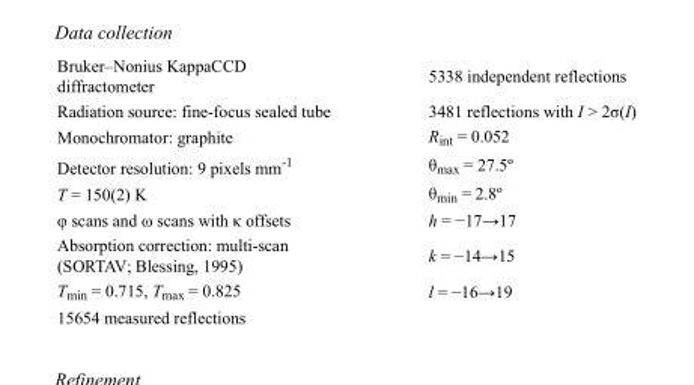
<table><tbody><tr><td>Bruker–Nonius KappaCCD diffractometer</td><td>5338 independent reflections</td></tr><tr><td>Radiation source: fine-focus sealed tube</td><td>3481 reflections with I &gt; 2σ(I)</td></tr><tr><td>Monochromator: graphite</td><td>R<sub>int</sub> = 0.052</td></tr><tr><td>Detector resolution: 9 pixels mm<sup>-1</sup></td><td>θ<sub>max</sub> = 27.5º</td></tr><tr><td>T = 150(2) K</td><td>θ<sub>min</sub> = 2.8º</td></tr><tr><td>φ scans and ω scans with κ offsets</td><td>h = −17→17</td></tr><tr><td>Absorption correction: multi-scan (SORTAV; Blessing, 1995)</td><td>k = −14→15</td></tr><tr><td>T<sub>min</sub> = 0.715, T<sub>max</sub> = 0.825</td><td>l = −16→19</td></tr><tr><td>15654 measured reflections</td><td></td></tr></tbody></table>